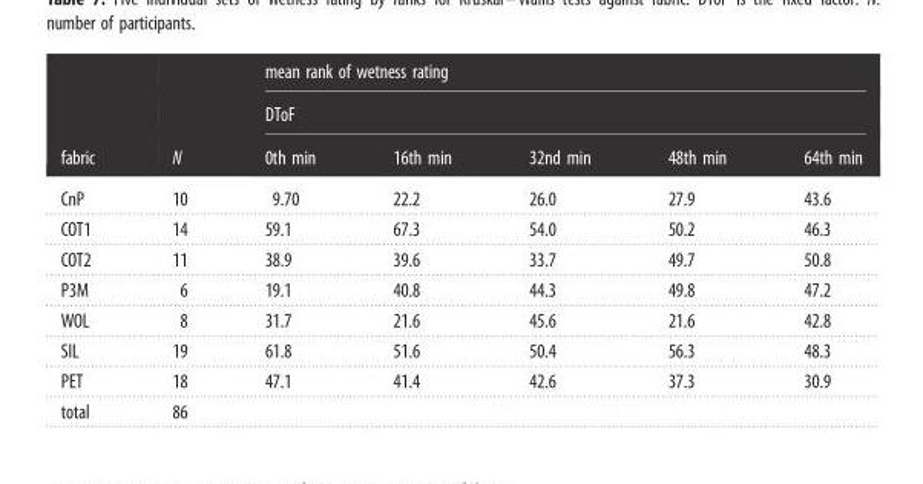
<table><thead><tr><td rowspan="3">fabric</td><td rowspan="3">N</td><td rowspan="2" colspan="5">mean rank of wetness rating DToF</td></tr><tr></tr><tr><td>0th min</td><td>16th min</td><td>32nd min</td><td>48th min</td><td>64th min</td></tr></thead><tbody><tr><td>CnP</td><td>10</td><td>9.70</td><td>22.2</td><td>26.0</td><td>27.9</td><td>43.6</td></tr><tr><td>COT1</td><td>14</td><td>59.1</td><td>67.3</td><td>54.0</td><td>50.2</td><td>46.3</td></tr><tr><td>COT2</td><td>11</td><td>38.9</td><td>39.6</td><td>33.7</td><td>49.7</td><td>50.8</td></tr><tr><td>P3M</td><td>6</td><td>19.1</td><td>40.8</td><td>44.3</td><td>49.8</td><td>47.2</td></tr><tr><td>WOL</td><td>8</td><td>31.7</td><td>21.6</td><td>45.6</td><td>21.6</td><td>42.8</td></tr><tr><td>SIL</td><td>19</td><td>61.8</td><td>51.6</td><td>50.4</td><td>56.3</td><td>48.3</td></tr><tr><td>PET</td><td>18</td><td>47.1</td><td>41.4</td><td>42.6</td><td>37.3</td><td>30.9</td></tr><tr><td>total</td><td>86</td><td></td><td></td><td></td><td></td><td></td></tr></tbody></table>